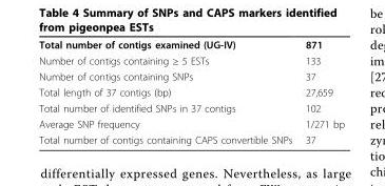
<table><tbody><tr><td>Total number of contigs examined (UG-IV)</td><td>871</td></tr><tr><td>Number of contigs containing ≥ 5 ESTs</td><td>133</td></tr><tr><td>Number of contigs containing SNPs</td><td>37</td></tr><tr><td>Total length of 37 contigs (bp)</td><td>27,659</td></tr><tr><td>Total number of identified SNPs in 37 contigs</td><td>102</td></tr><tr><td>Average SNP frequency</td><td>1/271 bp</td></tr><tr><td>Total number of contigs containing CAPS convertible SNPs</td><td>37</td></tr></tbody></table>